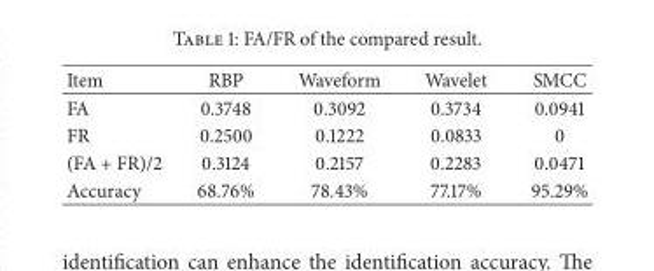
<table><thead><tr><td>Item</td><td>RBP</td><td>Waveform</td><td>Wavelet</td><td>SMCC</td></tr></thead><tbody><tr><td>FA</td><td>0.3748</td><td>0.3092</td><td>0.3734</td><td>0.0941</td></tr><tr><td>FR</td><td>0.2500</td><td>0.1222</td><td>0.0833</td><td>0</td></tr><tr><td>(FA + FR)/2</td><td>0.3124</td><td>0.2157</td><td>0.2283</td><td>0.0471</td></tr><tr><td>Accuracy</td><td>68.76%</td><td>78.43%</td><td>77.17%</td><td>95.29%</td></tr></tbody></table>